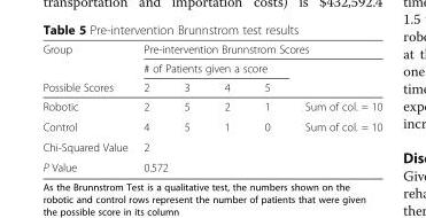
<table><thead><tr><td rowspan="3">Group Possible Scores</td><td colspan="5">Pre-intervention Brunnstrom Scores</td></tr><tr><td colspan="4"># of Patients given a score</td><td rowspan="2"></td></tr><tr><td>2</td><td>3</td><td>4</td><td>5</td></tr></thead><tbody><tr><td>Robotic</td><td>2</td><td>5</td><td>2</td><td>1</td><td>Sum of col. = 10</td></tr><tr><td>Control</td><td>4</td><td>5</td><td>1</td><td>0</td><td>Sum of col. = 10</td></tr><tr><td>Chi-Squared Value</td><td colspan="4">2</td><td rowspan="2"></td></tr><tr><td>P Value</td><td colspan="4">0.572</td></tr></tbody></table>